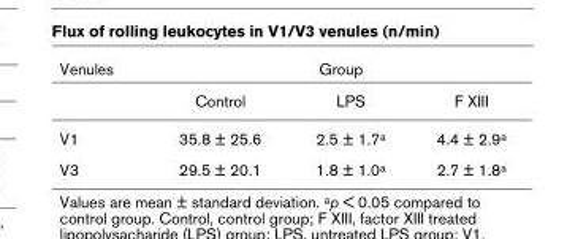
<table><thead><tr><td rowspan="2">Venules</td><td colspan="3">Group</td></tr><tr><td>Control</td><td>LPS</td><td>F XIII</td></tr></thead><tbody><tr><td>V1</td><td>35.8 ± 25.6</td><td>2.5 ± 1.7a</td><td>4.4 ± 2.9a</td></tr><tr><td>V3</td><td>29.5 ± 20.1</td><td>1.8 ± 1.0a</td><td>2.7 ± 1.8a</td></tr></tbody></table>